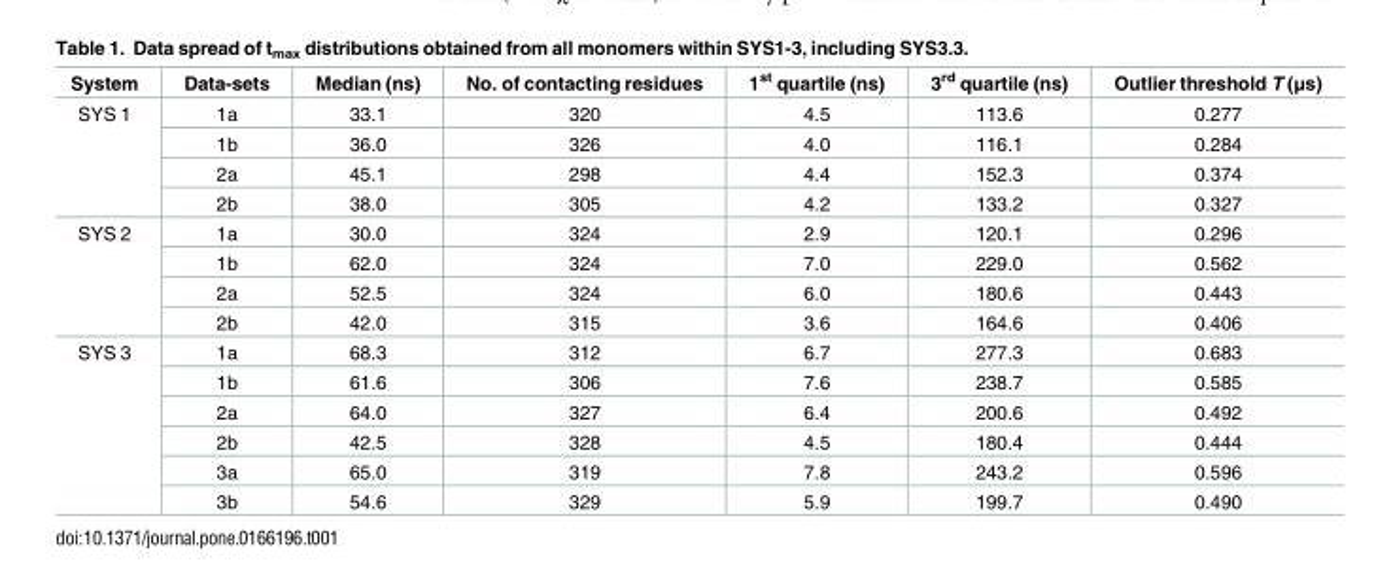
<table><thead><tr><td>System</td><td>Data-sets</td><td>Median (ns)</td><td>No. of contacting residues</td><td>1<sup>st</sup> quartile (ns)</td><td>3<sup>rd</sup> quartile (ns)</td><td>Outlier threshold T (μs)</td></tr></thead><tbody><tr><td rowspan="4">SYS 1</td><td>1a</td><td>33.1</td><td>320</td><td>4.5</td><td>113.6</td><td>0.277</td></tr><tr><td>1b</td><td>36.0</td><td>326</td><td>4.0</td><td>116.1</td><td>0.284</td></tr><tr><td>2a</td><td>45.1</td><td>298</td><td>4.4</td><td>152.3</td><td>0.374</td></tr><tr><td>2b</td><td>38.0</td><td>305</td><td>4.2</td><td>133.2</td><td>0.327</td></tr><tr><td rowspan="4">SYS 2</td><td>1a</td><td>30.0</td><td>324</td><td>2.9</td><td>120.1</td><td>0.296</td></tr><tr><td>1b</td><td>62.0</td><td>324</td><td>7.0</td><td>229.0</td><td>0.562</td></tr><tr><td>2a</td><td>52.5</td><td>324</td><td>6.0</td><td>180.6</td><td>0.443</td></tr><tr><td>2b</td><td>42.0</td><td>315</td><td>3.6</td><td>164.6</td><td>0.406</td></tr><tr><td rowspan="6">SYS 3</td><td>1a</td><td>68.3</td><td>312</td><td>6.7</td><td>277.3</td><td>0.683</td></tr><tr><td>1b</td><td>61.6</td><td>306</td><td>7.6</td><td>238.7</td><td>0.585</td></tr><tr><td>2a</td><td>64.0</td><td>327</td><td>6.4</td><td>200.6</td><td>0.492</td></tr><tr><td>2b</td><td>42.5</td><td>328</td><td>4.5</td><td>180.4</td><td>0.444</td></tr><tr><td>3a</td><td>65.0</td><td>319</td><td>7.8</td><td>243.2</td><td>0.596</td></tr><tr><td>3b</td><td>54.6</td><td>329</td><td>5.9</td><td>199.7</td><td>0.490</td></tr></tbody></table>